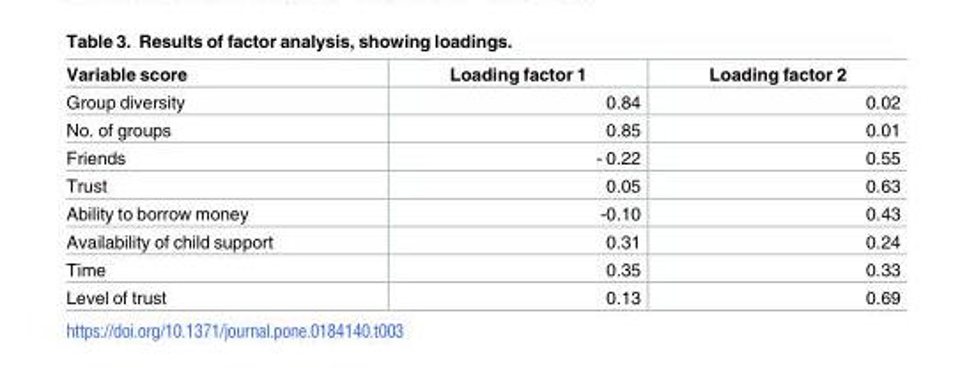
<table><thead><tr><td>Variable score</td><td>Loading factor 1</td><td>Loading factor 2</td></tr></thead><tbody><tr><td>Group diversity</td><td>0.84</td><td>0.02</td></tr><tr><td>No. of groups</td><td>0.85</td><td>0.01</td></tr><tr><td>Friends</td><td>- 0.22</td><td>0.55</td></tr><tr><td>Trust</td><td>0.05</td><td>0.63</td></tr><tr><td>Ability to borrow money</td><td>-0.10</td><td>0.43</td></tr><tr><td>Availability of child support</td><td>0.31</td><td>0.24</td></tr><tr><td>Time</td><td>0.35</td><td>0.33</td></tr><tr><td>Level of trust</td><td>0.13</td><td>0.69</td></tr></tbody></table>